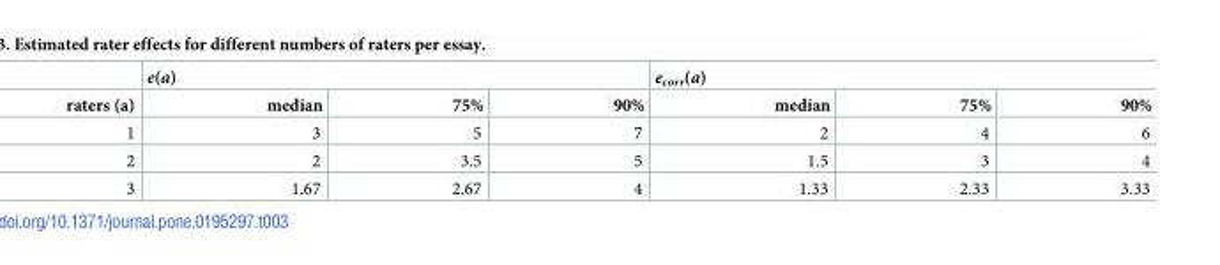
<table><thead><tr><td rowspan="2">raters (a)</td><td colspan="3">e(a)</td><td colspan="3">e<sub>corr</sub>(a)</td></tr><tr><td>median</td><td>75%</td><td>90%</td><td>median</td><td>75%</td><td>90%</td></tr></thead><tbody><tr><td>1</td><td>3</td><td>5</td><td>7</td><td>2</td><td>4</td><td>6</td></tr><tr><td>2</td><td>2</td><td>3.5</td><td>5</td><td>1.5</td><td>3</td><td>4</td></tr><tr><td>3</td><td>1.67</td><td>2.67</td><td>4</td><td>1.33</td><td>2.33</td><td>3.33</td></tr></tbody></table>